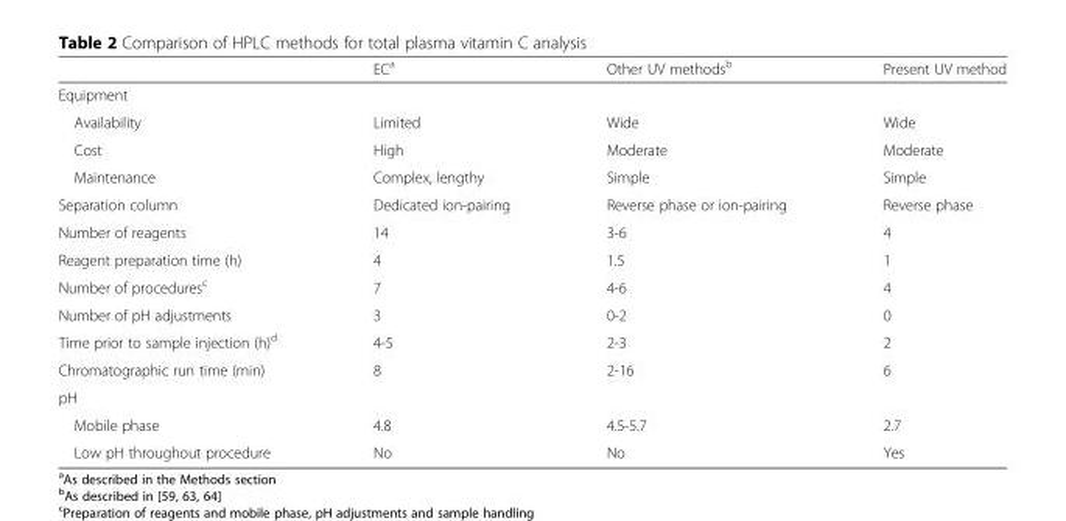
<table><thead><tr><td></td><td>EC<sup>a</sup></td><td>Other UV methods<sup>b</sup></td><td>Present UV method</td></tr></thead><tbody><tr><td colspan="4">Equipment</td></tr><tr><td>Availability</td><td>Limited</td><td>Wide</td><td>Wide</td></tr><tr><td>Cost</td><td>High</td><td>Moderate</td><td>Moderate</td></tr><tr><td>Maintenance</td><td>Complex, lengthy</td><td>Simple</td><td>Simple</td></tr><tr><td>Separation column</td><td>Dedicated ion-pairing</td><td>Reverse phase or ion-pairing</td><td>Reverse phase</td></tr><tr><td>Number of reagents</td><td>14</td><td>3-6</td><td>4</td></tr><tr><td>Reagent preparation time (h)</td><td>4</td><td>1.5</td><td>1</td></tr><tr><td>Number of procedures<sup>c</sup></td><td>7</td><td>4-6</td><td>4</td></tr><tr><td>Number of pH adjustments</td><td>3</td><td>0-2</td><td>0</td></tr><tr><td>Time prior to sample injection (h)<sup>d</sup></td><td>4-5</td><td>2-3</td><td>2</td></tr><tr><td>Chromatographic run time (min)</td><td>8</td><td>2-16</td><td>6</td></tr><tr><td colspan="4">pH</td></tr><tr><td>Mobile phase</td><td>4.8</td><td>4.5-5.7</td><td>2.7</td></tr><tr><td>Low pH throughout procedure</td><td>No</td><td>No</td><td>Yes</td></tr></tbody></table>